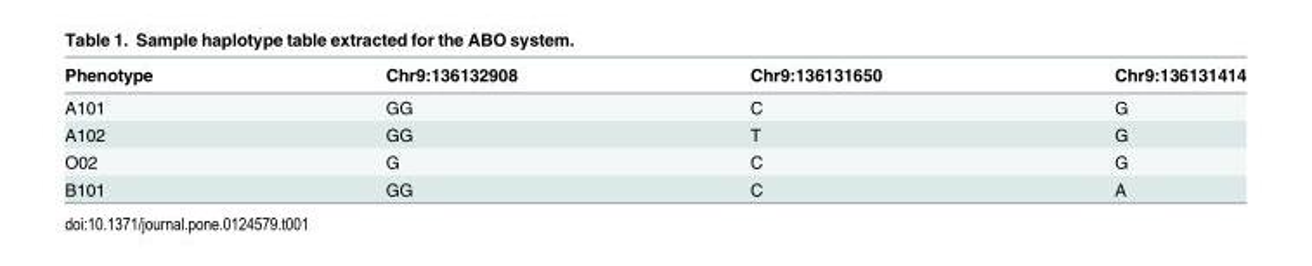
<table><thead><tr><td>Phenotype</td><td>Chr9:136132908</td><td>Chr9:136131650</td><td>Chr9:136131414</td></tr></thead><tbody><tr><td>A101</td><td>GG</td><td>C</td><td>G</td></tr><tr><td>A102</td><td>GG</td><td>T</td><td>G</td></tr><tr><td>O02</td><td>G</td><td>C</td><td>G</td></tr><tr><td>B101</td><td>GG</td><td>C</td><td>A</td></tr></tbody></table>